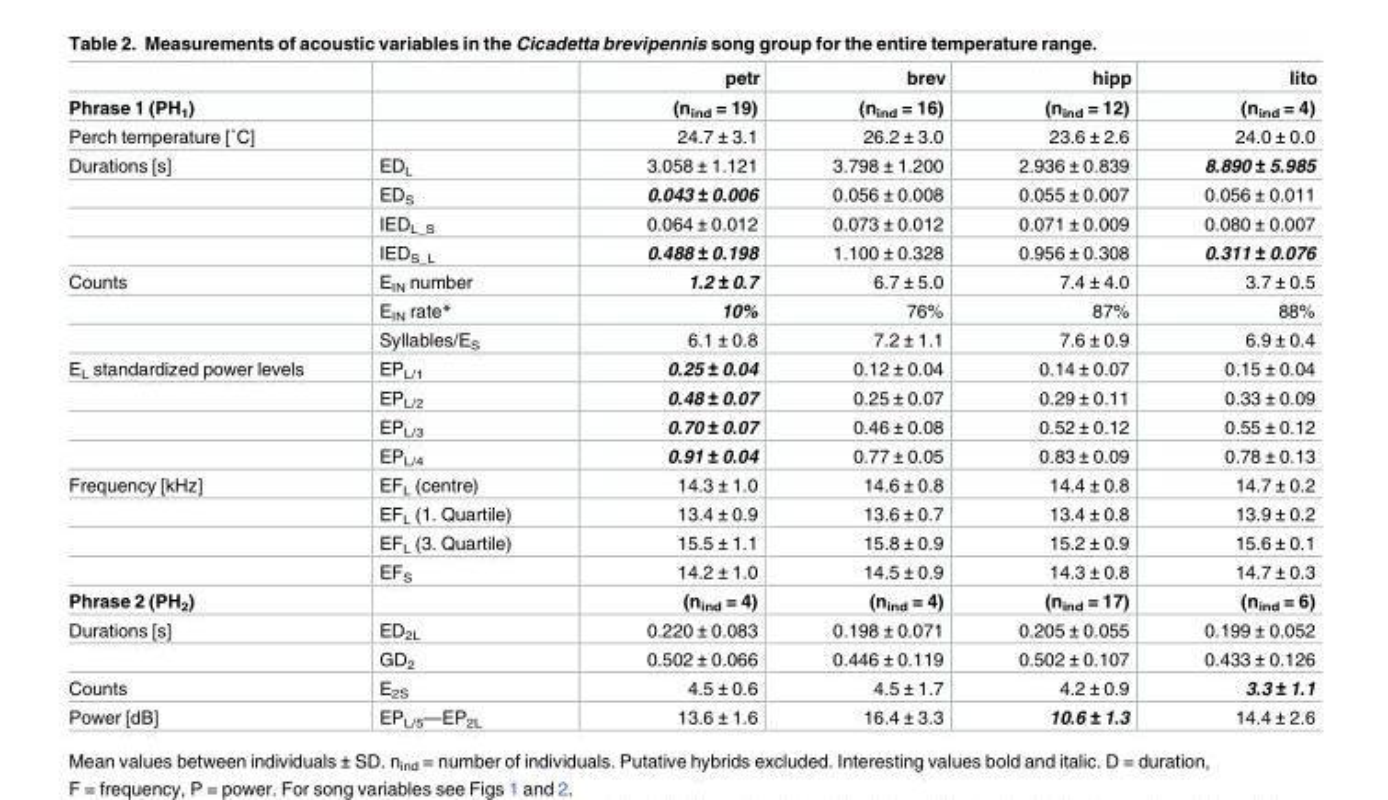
<table><thead><tr><td></td><td></td><td>petr</td><td>brev</td><td>hipp</td><td>lito</td></tr></thead><tbody><tr><td>Phrase 1 (PH<sub>1</sub>)</td><td></td><td>(n<sub>ind</sub> = 19)</td><td>(n<sub>ind</sub> = 16)</td><td>(n<sub>ind</sub> = 12)</td><td>(n<sub>ind</sub> = 4)</td></tr><tr><td>Perch temperature [˚C]</td><td></td><td>24.7 ± 3.1</td><td>26.2 ± 3.0</td><td>23.6 ± 2.6</td><td>24.0 ± 0.0</td></tr><tr><td rowspan="4">Durations [s]</td><td>ED<sub>L</sub></td><td>3.058 ± 1.121</td><td>3.798 ± 1.200</td><td>2.936 ± 0.839</td><td>8.890 ± 5.985</td></tr><tr><td>ED<sub>S</sub></td><td>0.043 ± 0.006</td><td>0.056 ± 0.008</td><td>0.055 ± 0.007</td><td>0.056 ± 0.011</td></tr><tr><td>IED<sub>L_S</sub></td><td>0.064 ± 0.012</td><td>0.073 ± 0.012</td><td>0.071 ± 0.009</td><td>0.080 ± 0.007</td></tr><tr><td>IED<sub>S_L</sub></td><td>0.488 ± 0.198</td><td>1.100 ± 0.328</td><td>0.956 ± 0.308</td><td>0.311 ± 0.076</td></tr><tr><td rowspan="3">Counts</td><td>E<sub>IN</sub> number</td><td>1.2 ± 0.7</td><td>6.7 ± 5.0</td><td>7.4 ± 4.0</td><td>3.7 ± 0.5</td></tr><tr><td>E<sub>IN</sub> rate*</td><td>10%</td><td>76%</td><td>87%</td><td>88%</td></tr><tr><td>Syllables/E<sub>S</sub></td><td>6.1 ± 0.8</td><td>7.2 ± 1.1</td><td>7.6 ± 0.9</td><td>6.9 ± 0.4</td></tr><tr><td rowspan="4">E<sub>L</sub> standardized power levels</td><td>EP<sub>L/1</sub></td><td>0.25 ± 0.04</td><td>0.12 ± 0.04</td><td>0.14 ± 0.07</td><td>0.15 ± 0.04</td></tr><tr><td>EP<sub>L/2</sub></td><td>0.48 ± 0.07</td><td>0.25 ± 0.07</td><td>0.29 ± 0.11</td><td>0.33 ± 0.09</td></tr><tr><td>EP<sub>L/3</sub></td><td>0.70 ± 0.07</td><td>0.46 ± 0.08</td><td>0.52 ± 0.12</td><td>0.55 ± 0.12</td></tr><tr><td>EP<sub>L/4</sub></td><td>0.91 ± 0.04</td><td>0.77 ± 0.05</td><td>0.83 ± 0.09</td><td>0.78 ± 0.13</td></tr><tr><td rowspan="4">Frequency [kHz]</td><td>EF<sub>L</sub> (centre)</td><td>14.3 ± 1.0</td><td>14.6 ± 0.8</td><td>14.4 ± 0.8</td><td>14.7 ± 0.2</td></tr><tr><td>EF<sub>L</sub> (1. Quartile)</td><td>13.4 ± 0.9</td><td>13.6 ± 0.7</td><td>13.4 ± 0.8</td><td>13.9 ± 0.2</td></tr><tr><td>EF<sub>L</sub> (3. Quartile)</td><td>15.5 ± 1.1</td><td>15.8 ± 0.9</td><td>15.2 ± 0.9</td><td>15.6 ± 0.1</td></tr><tr><td>EF<sub>S</sub></td><td>14.2 ± 1.0</td><td>14.5 ± 0.9</td><td>14.3 ± 0.8</td><td>14.7 ± 0.3</td></tr><tr><td>Phrase 2 (PH<sub>2</sub>)</td><td></td><td>(n<sub>ind</sub> = 4)</td><td>(n<sub>ind</sub> = 4)</td><td>(n<sub>ind</sub> = 17)</td><td>(n<sub>ind</sub> = 6)</td></tr><tr><td rowspan="2">Durations [s]</td><td>ED<sub>2L</sub></td><td>0.220 ± 0.083</td><td>0.198 ± 0.071</td><td>0.205 ± 0.055</td><td>0.199 ± 0.052</td></tr><tr><td>GD<sub>2</sub></td><td>0.502 ± 0.066</td><td>0.446 ± 0.119</td><td>0.502 ± 0.107</td><td>0.433 ± 0.126</td></tr><tr><td>Counts</td><td>E<sub>2S</sub></td><td>4.5 ± 0.6</td><td>4.5 ± 1.7</td><td>4.2 ± 0.9</td><td>3.3 ± 1.1</td></tr><tr><td>Power [dB]</td><td>EP<sub>L/5</sub>—EP<sub>2L</sub></td><td>13.6 ± 1.6</td><td>16.4 ± 3.3</td><td>10.6 ± 1.3</td><td>14.4 ± 2.6</td></tr></tbody></table>